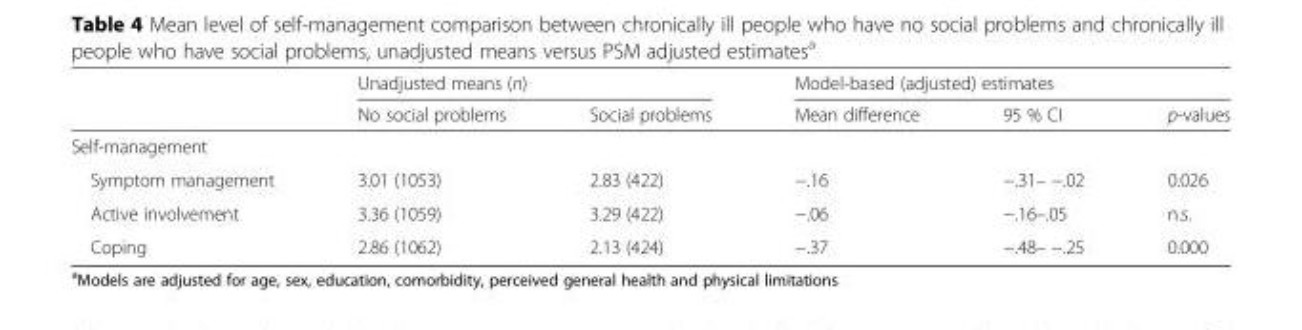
<table><thead><tr><td rowspan="2"></td><td colspan="2">Unadjusted means (n)</td><td colspan="3">Model-based (adjusted) estimates</td></tr><tr><td>No social problems</td><td>Social problems</td><td>Mean difference</td><td>95 % CI</td><td>p-values</td></tr></thead><tbody><tr><td colspan="6">Self-management</td></tr><tr><td>Symptom management</td><td>3.01 (1053)</td><td>2.83 (422)</td><td>−.16</td><td>−.31– −.02</td><td>0.026</td></tr><tr><td>Active involvement</td><td>3.36 (1059)</td><td>3.29 (422)</td><td>−.06</td><td>−.16–.05</td><td>n.s.</td></tr><tr><td>Coping</td><td>2.86 (1062)</td><td>2.13 (424)</td><td>−.37</td><td>−.48– −.25</td><td>0.000</td></tr></tbody></table>